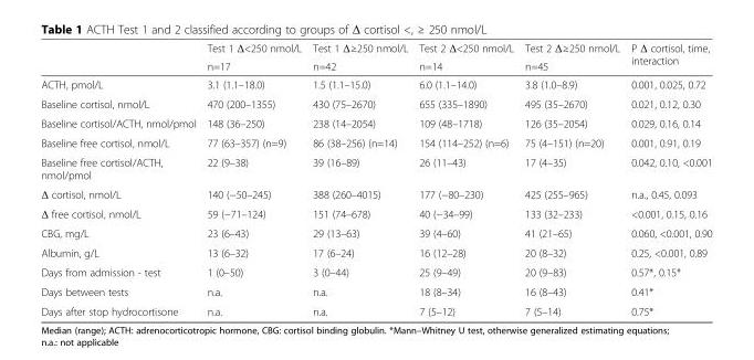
<table><thead><tr><td rowspan="2"></td><td rowspan="2">Test 1 Δ&lt;250 nmol/L n=17</td><td rowspan="2">Test 1 Δ≥250 nmol/L n=42</td><td rowspan="2">Test 2 Δ&lt;250 nmol/L n=14</td><td rowspan="2">Test 2 Δ≥250 nmol/L n=45</td><td rowspan="2">P Δ cortisol, time, interaction</td></tr><tr></tr></thead><tbody><tr><td>ACTH, pmol/L</td><td>3.1 (1.1–18.0)</td><td>1.5 (1.1–15.0)</td><td>6.0 (1.1–14.0)</td><td>3.8 (1.0–8.9)</td><td>0.001, 0.025, 0.72</td></tr><tr><td>Baseline cortisol, nmol/L</td><td>470 (200–1355)</td><td>430 (75–2670)</td><td>655 (335–1890)</td><td>495 (35–2670)</td><td>0.021, 0.12, 0.30</td></tr><tr><td>Baseline cortisol/ACTH, nmol/pmol</td><td>148 (36–250)</td><td>238 (14–2054)</td><td>109 (48–1718)</td><td>126 (35–2054)</td><td>0.029, 0.16, 0.14</td></tr><tr><td>Baseline free cortisol, nmol/L</td><td>77 (63–357) (n=9)</td><td>86 (38–256) (n=14)</td><td>154 (114–252) (n=6)</td><td>75 (4–151) (n=20)</td><td>0.001, 0.91, 0.19</td></tr><tr><td>Baseline free cortisol/ACTH, nmol/pmol</td><td>22 (9–38)</td><td>39 (16–89)</td><td>26 (11–43)</td><td>17 (4–35)</td><td>0.042, 0.10, &lt;0.001</td></tr><tr><td>Δ cortisol, nmol/L</td><td>140 (−50–245)</td><td>388 (260–4015)</td><td>177 (−80–230)</td><td>425 (255–965)</td><td>n.a., 0.45, 0.093</td></tr><tr><td>Δ free cortisol, nmol/L</td><td>59 (−71–124)</td><td>151 (74–678)</td><td>40 (−34–99)</td><td>133 (32–233)</td><td>&lt;0.001, 0.15, 0.16</td></tr><tr><td>CBG, mg/L</td><td>23 (6–43)</td><td>29 (13–63)</td><td>39 (4–60)</td><td>41 (21–65)</td><td>0.060, &lt;0.001, 0.90</td></tr><tr><td>Albumin, g/L</td><td>13 (6–32)</td><td>17 (6–24)</td><td>16 (12–28)</td><td>20 (8–32)</td><td>0.25, &lt;0.001, 0.89</td></tr><tr><td>Days from admission - test</td><td>1 (0–50)</td><td>3 (0–44)</td><td>25 (9–49)</td><td>20 (9–83)</td><td>0.57*, 0.15*</td></tr><tr><td>Days between tests</td><td>n.a.</td><td>n.a.</td><td>18 (8–34)</td><td>16 (8–43)</td><td>0.41*</td></tr><tr><td>Days after stop hydrocortisone</td><td>n.a.</td><td>n.a.</td><td>7 (5–12)</td><td>7 (5–14)</td><td>0.75*</td></tr></tbody></table>